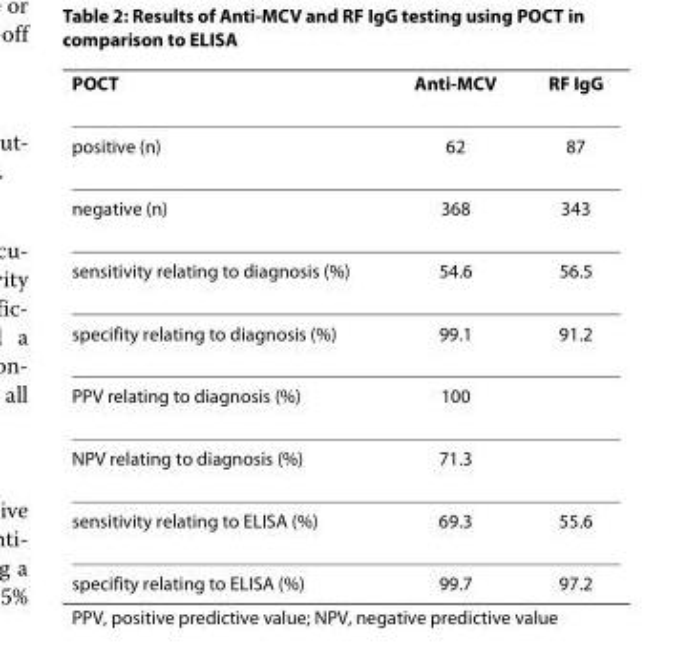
<table><thead><tr><td>POCT</td><td>Anti-MCV</td><td>RF IgG</td></tr></thead><tbody><tr><td>positive (n)</td><td>62</td><td>87</td></tr><tr><td>negative (n)</td><td>368</td><td>343</td></tr><tr><td>sensitivity relating to diagnosis (%)</td><td>54.6</td><td>56.5</td></tr><tr><td>specifity relating to diagnosis (%)</td><td>99.1</td><td>91.2</td></tr><tr><td>PPV relating to diagnosis (%)</td><td>100</td><td></td></tr><tr><td>NPV relating to diagnosis (%)</td><td>71.3</td><td></td></tr><tr><td>sensitivity relating to ELISA (%)</td><td>69.3</td><td>55.6</td></tr><tr><td>specifity relating to ELISA (%)</td><td>99.7</td><td>97.2</td></tr></tbody></table>